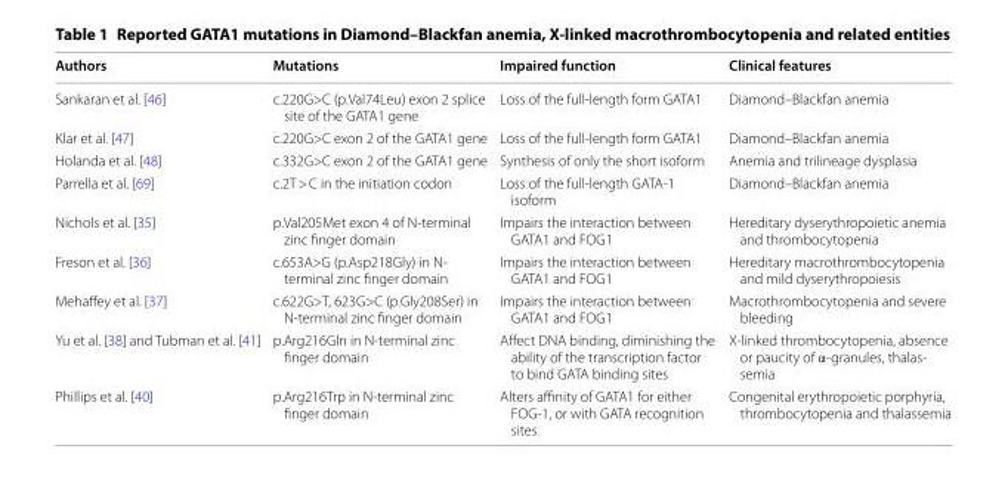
<table><thead><tr><td>Authors</td><td>Mutations</td><td>Impaired function</td><td>Clinical features</td></tr></thead><tbody><tr><td>Sankaran et al. [46]</td><td>c.220G&gt;C (p.Val74Leu) exon 2 splice site of the GATA1 gene</td><td>Loss of the full‑length form GATA1</td><td>Diamond–Blackfan anemia</td></tr><tr><td>Klar et al. [47]</td><td>c.220G&gt;C exon 2 of the GATA1 gene</td><td>Loss of the full‑length form GATA1</td><td>Diamond–Blackfan anemia</td></tr><tr><td>Holanda et al. [48]</td><td>c.332G&gt;C exon 2 of the GATA1 gene</td><td>Synthesis of only the short isoform</td><td>Anemia and trilineage dysplasia</td></tr><tr><td>Parrella et al. [69]</td><td>c.2T &gt; C in the initiation codon</td><td>Loss of the full‑length GATA‑1 isoform</td><td>Diamond–Blackfan anemia</td></tr><tr><td>Nichols et al. [35]</td><td>p.Val205Met exon 4 of N‑terminal zinc finger domain</td><td>Impairs the interaction between GATA1 and FOG1</td><td>Hereditary dyserythropoietic anemia and thrombocytopenia</td></tr><tr><td>Freson et al. [36]</td><td>c.653A&gt;G (p.Asp218Gly) in N‑ terminal zinc finger domain</td><td>Impairs the interaction between GATA1 and FOG1</td><td>Hereditary macrothrombocytopenia and mild dyserythropoiesis</td></tr><tr><td>Mehaffey et al. [37]</td><td>c.622G&gt;T, 623G&gt;C (p.Gly208Ser) in N‑terminal zinc finger domain</td><td>Impairs the interaction between GATA1 and FOG1</td><td>Macrothrombocytopenia and severe bleeding</td></tr><tr><td>Yu et al. [38] and Tubman et al. [41]</td><td>p.Arg216Gln in N‑terminal zinc finger domain</td><td>Affect DNA binding, diminishing the ability of the transcription factor to bind GATA binding sites</td><td>X‑linked thrombocytopenia, absence or paucity of α‑granules, thalas‑ semia</td></tr><tr><td>Phillips et al. [40]</td><td>p.Arg216Trp in N‑terminal zinc finger domain</td><td>Alters affinity of GATA1 for either FOG‑1, or with GATA recognition sites</td><td>Congenital erythropoietic porphyria, thrombocytopenia and thalassemia</td></tr></tbody></table>